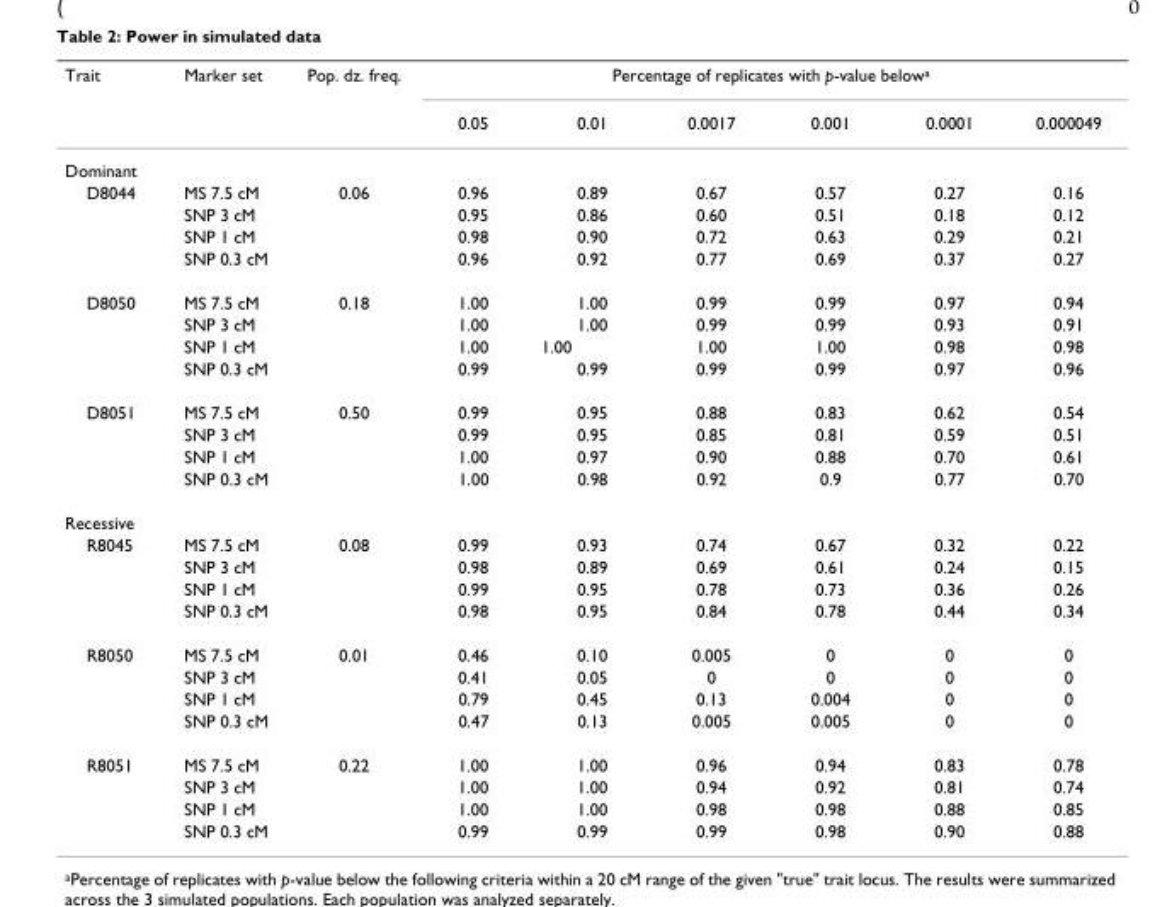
<table><thead><tr><td rowspan="2">Trait</td><td rowspan="2">Marker set</td><td rowspan="2">Pop. dz. freq.</td><td colspan="6">Percentage of replicates with p-value belowa</td></tr><tr><td>0.05</td><td>0.01</td><td>0.0017</td><td>0.001</td><td>0.0001</td><td>0.000049</td></tr></thead><tbody><tr><td colspan="9">Dominant</td></tr><tr><td rowspan="4">D8044</td><td>MS 7.5 cM</td><td>0.06</td><td>0.96</td><td>0.89</td><td>0.67</td><td>0.57</td><td>0.27</td><td>0.16</td></tr><tr><td>SNP 3 cM</td><td></td><td>0.95</td><td>0.86</td><td>0.60</td><td>0.51</td><td>0.18</td><td>0.12</td></tr><tr><td>SNP 1 cM</td><td></td><td>0.98</td><td>0.90</td><td>0.72</td><td>0.63</td><td>0.29</td><td>0.21</td></tr><tr><td>SNP 0.3 cM</td><td></td><td>0.96</td><td>0.92</td><td>0.77</td><td>0.69</td><td>0.37</td><td>0.27</td></tr><tr><td rowspan="4">D8050</td><td>MS 7.5 cM</td><td>0.18</td><td>1.00</td><td>1.00</td><td>0.99</td><td>0.99</td><td>0.97</td><td>0.94</td></tr><tr><td>SNP 3 cM</td><td></td><td>1.00</td><td>1.00</td><td>0.99</td><td>0.99</td><td>0.93</td><td>0.91</td></tr><tr><td>SNP 1 cM</td><td></td><td>1.00</td><td>1.00</td><td>1.00</td><td>1.00</td><td>0.98</td><td>0.98</td></tr><tr><td>SNP 0.3 cM</td><td></td><td>0.99</td><td>0.99</td><td>0.99</td><td>0.99</td><td>0.97</td><td>0.96</td></tr><tr><td rowspan="4">D8051</td><td>MS 7.5 cM</td><td>0.50</td><td>0.99</td><td>0.95</td><td>0.88</td><td>0.83</td><td>0.62</td><td>0.54</td></tr><tr><td>SNP 3 cM</td><td></td><td>0.99</td><td>0.95</td><td>0.85</td><td>0.81</td><td>0.59</td><td>0.51</td></tr><tr><td>SNP 1 cM</td><td></td><td>1.00</td><td>0.97</td><td>0.90</td><td>0.88</td><td>0.70</td><td>0.61</td></tr><tr><td>SNP 0.3 cM</td><td></td><td>1.00</td><td>0.98</td><td>0.92</td><td>0.9</td><td>0.77</td><td>0.70</td></tr><tr><td colspan="9">Recessive</td></tr><tr><td rowspan="4">R8045</td><td>MS 7.5 cM</td><td>0.08</td><td>0.99</td><td>0.93</td><td>0.74</td><td>0.67</td><td>0.32</td><td>0.22</td></tr><tr><td>SNP 3 cM</td><td></td><td>0.98</td><td>0.89</td><td>0.69</td><td>0.61</td><td>0.24</td><td>0.15</td></tr><tr><td>SNP 1 cM</td><td></td><td>0.99</td><td>0.95</td><td>0.78</td><td>0.73</td><td>0.36</td><td>0.26</td></tr><tr><td>SNP 0.3 cM</td><td></td><td>0.98</td><td>0.95</td><td>0.84</td><td>0.78</td><td>0.44</td><td>0.34</td></tr><tr><td rowspan="4">R8050</td><td>MS 7.5 cM</td><td>0.01</td><td>0.46</td><td>0.10</td><td>0.005</td><td>0</td><td>0</td><td>0</td></tr><tr><td>SNP 3 cM</td><td></td><td>0.41</td><td>0.05</td><td>0</td><td>0</td><td>0</td><td>0</td></tr><tr><td>SNP 1 cM</td><td></td><td>0.79</td><td>0.45</td><td>0.13</td><td>0.004</td><td>0</td><td>0</td></tr><tr><td>SNP 0.3 cM</td><td></td><td>0.47</td><td>0.13</td><td>0.005</td><td>0.005</td><td>0</td><td>0</td></tr><tr><td rowspan="4">R8051</td><td>MS 7.5 cM</td><td>0.22</td><td>1.00</td><td>1.00</td><td>0.96</td><td>0.94</td><td>0.83</td><td>0.78</td></tr><tr><td>SNP 3 cM</td><td></td><td>1.00</td><td>1.00</td><td>0.94</td><td>0.92</td><td>0.81</td><td>0.74</td></tr><tr><td>SNP 1 cM</td><td></td><td>1.00</td><td>1.00</td><td>0.98</td><td>0.98</td><td>0.88</td><td>0.85</td></tr><tr><td>SNP 0.3 cM</td><td></td><td>0.99</td><td>0.99</td><td>0.99</td><td>0.98</td><td>0.90</td><td>0.88</td></tr></tbody></table>